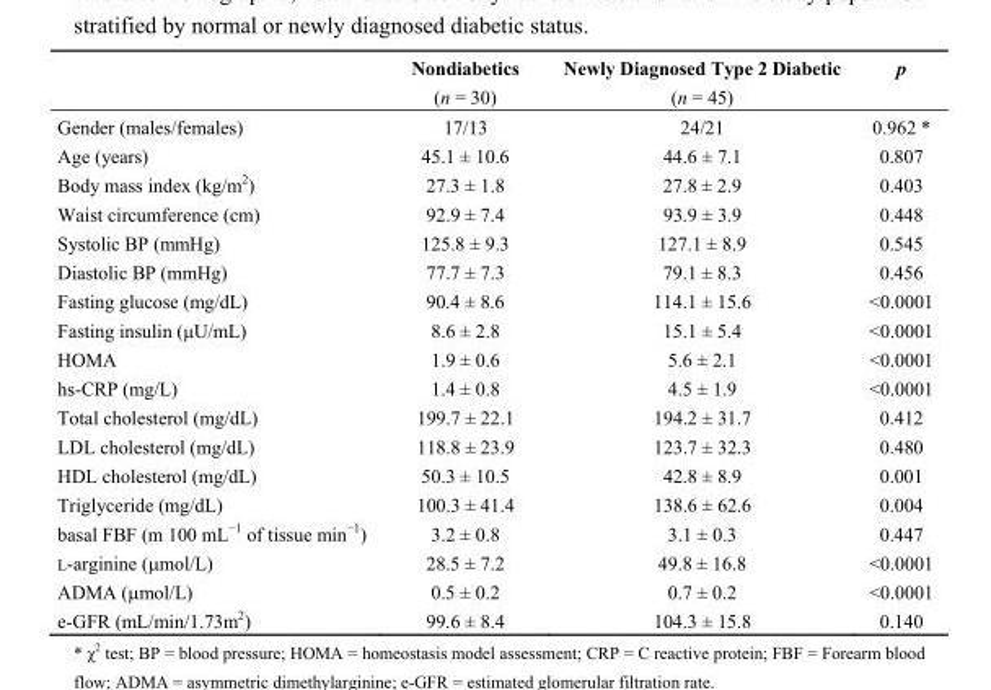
<table><thead><tr><td></td><td>Nondiabetics (n = 30)</td><td>Newly Diagnosed Type 2 Diabetic (n = 45)</td><td>p</td></tr></thead><tbody><tr><td>Gender (males/females)</td><td>17/13</td><td>24/21</td><td>0.962 *</td></tr><tr><td>Age (years)</td><td>45.1 ± 10.6</td><td>44.6 ± 7.1</td><td>0.807</td></tr><tr><td>Body mass index (kg/m<sup>2</sup>)</td><td>27.3 ± 1.8</td><td>27.8 ± 2.9</td><td>0.403</td></tr><tr><td>Waist circumference (cm)</td><td>92.9 ± 7.4</td><td>93.9 ± 3.9</td><td>0.448</td></tr><tr><td>Systolic BP (mmHg)</td><td>125.8 ± 9.3</td><td>127.1 ± 8.9</td><td>0.545</td></tr><tr><td>Diastolic BP (mmHg)</td><td>77.7 ± 7.3</td><td>79.1 ± 8.3</td><td>0.456</td></tr><tr><td>Fasting glucose (mg/dL)</td><td>90.4 ± 8.6</td><td>114.1 ± 15.6</td><td>&lt;0.0001</td></tr><tr><td>Fasting insulin (μU/mL)</td><td>8.6 ± 2.8</td><td>15.1 ± 5.4</td><td>&lt;0.0001</td></tr><tr><td>HOMA</td><td>1.9 ± 0.6</td><td>5.6 ± 2.1</td><td>&lt;0.0001</td></tr><tr><td>hs-CRP (mg/L)</td><td>1.4 ± 0.8</td><td>4.5 ± 1.9</td><td>&lt;0.0001</td></tr><tr><td>Total cholesterol (mg/dL)</td><td>199.7 ± 22.1</td><td>194.2 ± 31.7</td><td>0.412</td></tr><tr><td>LDL cholesterol (mg/dL)</td><td>118.8 ± 23.9</td><td>123.7 ± 32.3</td><td>0.480</td></tr><tr><td>HDL cholesterol (mg/dL)</td><td>50.3 ± 10.5</td><td>42.8 ± 8.9</td><td>0.001</td></tr><tr><td>Triglyceride (mg/dL)</td><td>100.3 ± 41.4</td><td>138.6 ± 62.6</td><td>0.004</td></tr><tr><td>basal FBF (m 100 mL<sup>−1</sup> of tissue min<sup>−1</sup>)</td><td>3.2 ± 0.8</td><td>3.1 ± 0.3</td><td>0.447</td></tr><tr><td>L-arginine (μmol/L)</td><td>28.5 ± 7.2</td><td>49.8 ± 16.8</td><td>&lt;0.0001</td></tr><tr><td>ADMA (μmol/L)</td><td>0.5 ± 0.2</td><td>0.7 ± 0.2</td><td>&lt;0.0001</td></tr><tr><td>e-GFR (mL/min/1.73m<sup>2</sup>)</td><td>99.6 ± 8.4</td><td>104.3 ± 15.8</td><td>0.140</td></tr></tbody></table>